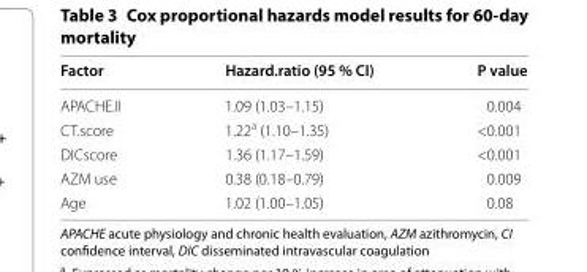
<table><thead><tr><td>Factor</td><td>Hazard.ratio (95 % CI)</td><td>P value</td></tr></thead><tbody><tr><td>APACHE.II</td><td>1.09 (1.03–1.15)</td><td>0.004</td></tr><tr><td>CT.score</td><td>1.22<sup>a</sup> (1.10–1.35)</td><td>&lt;0.001</td></tr><tr><td>DICscore</td><td>1.36 (1.17–1.59)</td><td>&lt;0.001</td></tr><tr><td>AZM use</td><td>0.38 (0.18–0.79)</td><td>0.009</td></tr><tr><td>Age</td><td>1.02 (1.00–1.05)</td><td>0.08</td></tr></tbody></table>